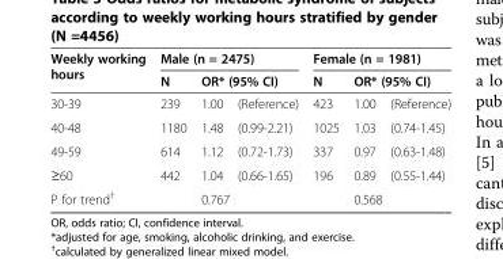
<table><thead><tr><td rowspan="3">Weekly working hours 30-39</td><td colspan="3">Male (n = 2475)</td><td colspan="3">Female (n = 1981)</td></tr><tr><td rowspan="2">N 239</td><td colspan="2">OR* (95% CI)</td><td rowspan="2">N 423</td><td colspan="2">OR* (95% CI)</td></tr><tr><td>1.00</td><td>(Reference)</td><td>1.00</td><td>(Reference)</td></tr></thead><tbody><tr><td>40-48</td><td>1180</td><td>1.48</td><td>(0.99-2.21)</td><td>1025</td><td>1.03</td><td>(0.74-1.45)</td></tr><tr><td>49-59</td><td>614</td><td>1.12</td><td>(0.72-1.73)</td><td>337</td><td>0.97</td><td>(0.63-1.48)</td></tr><tr><td>≥60</td><td>442</td><td>1.04</td><td>(0.66-1.65)</td><td>196</td><td>0.89</td><td>(0.55-1.44)</td></tr><tr><td>P for trend<sup>†</sup></td><td></td><td colspan="2">0.767</td><td></td><td colspan="2">0.568</td></tr></tbody></table>